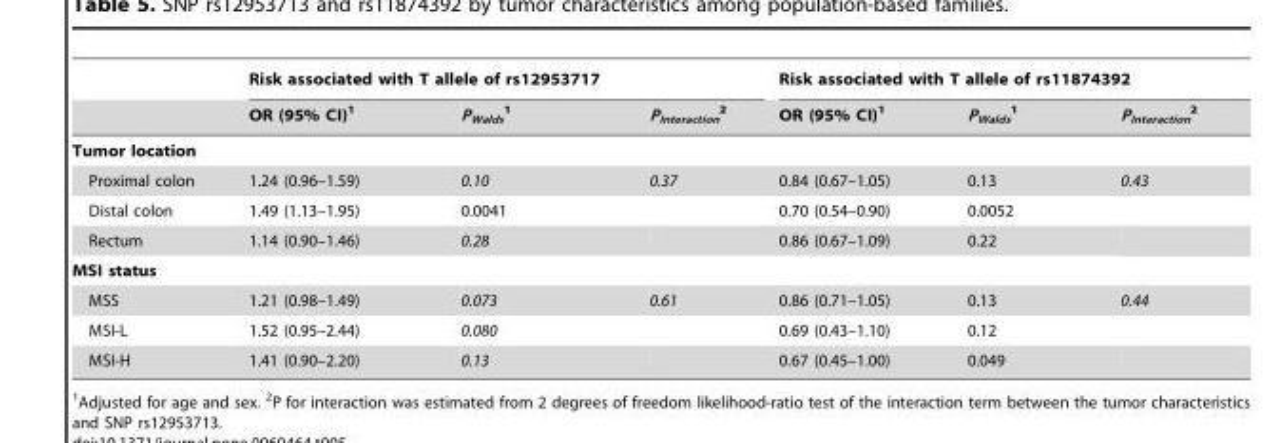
<table><thead><tr><td rowspan="2"></td><td colspan="3">Risk associated with T allele of rs12953717</td><td colspan="3">Risk associated with T allele of rs11874392</td></tr><tr><td>OR (95% CI)<sup>1</sup></td><td>P<sub>Walds</sub> 1</td><td>P<sub>Interaction</sub> <sup>2</sup></td><td>OR (95% CI)<sup>1</sup></td><td>P<sub>Walds</sub> 1</td><td>P<sub>Interaction</sub> <sup>2</sup></td></tr></thead><tbody><tr><td colspan="7">Tumor location</td></tr><tr><td>Proximal colon</td><td>1.24 (0.96–1.59)</td><td>0.10</td><td>0.37</td><td>0.84 (0.67–1.05)</td><td>0.13</td><td>0.43</td></tr><tr><td>Distal colon</td><td>1.49 (1.13–1.95)</td><td>0.0041</td><td></td><td>0.70 (0.54–0.90)</td><td>0.0052</td><td></td></tr><tr><td>Rectum</td><td>1.14 (0.90–1.46)</td><td>0.28</td><td></td><td>0.86 (0.67–1.09)</td><td>0.22</td><td></td></tr><tr><td colspan="7">MSI status</td></tr><tr><td>MSS</td><td>1.21 (0.98–1.49)</td><td>0.073</td><td>0.61</td><td>0.86 (0.71–1.05)</td><td>0.13</td><td>0.44</td></tr><tr><td>MSI-L</td><td>1.52 (0.95–2.44)</td><td>0.080</td><td></td><td>0.69 (0.43–1.10)</td><td>0.12</td><td></td></tr><tr><td>MSI-H</td><td>1.41 (0.90–2.20)</td><td>0.13</td><td></td><td>0.67 (0.45–1.00)</td><td>0.049</td><td></td></tr></tbody></table>